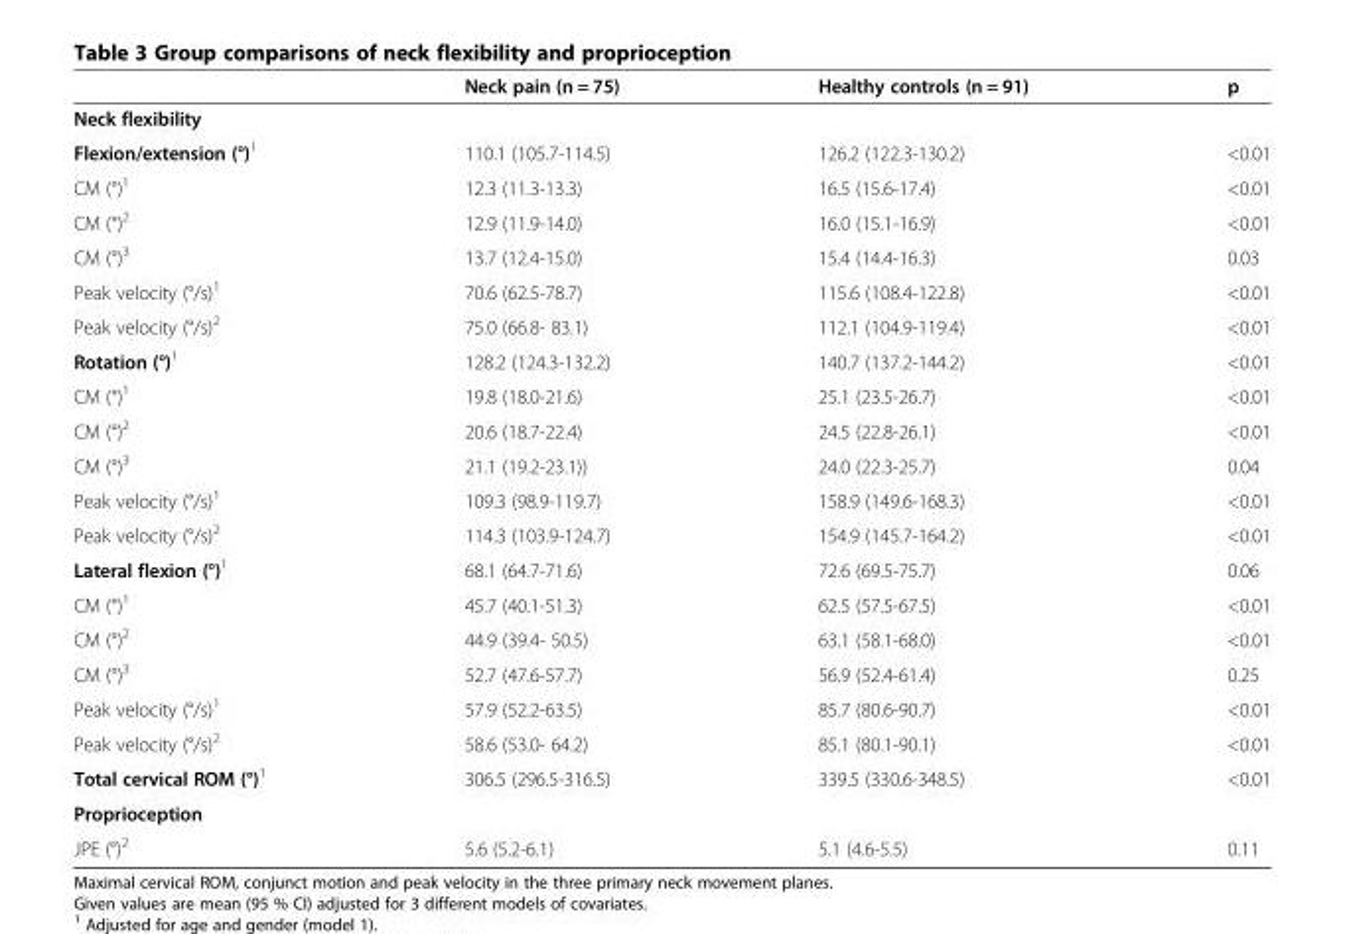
<table><thead><tr><td></td><td>Neck pain (n = 75)</td><td>Healthy controls (n = 91)</td><td>p</td></tr></thead><tbody><tr><td colspan="4">Neck flexibility</td></tr><tr><td>Flexion/extension (°)<sup>1</sup></td><td>110.1 (105.7-114.5)</td><td>126.2 (122.3-130.2)</td><td>&lt;0.01</td></tr><tr><td>CM (°)<sup>1</sup></td><td>12.3 (11.3-13.3)</td><td>16.5 (15.6-17.4)</td><td>&lt;0.01</td></tr><tr><td>CM (°)<sup>2</sup></td><td>12.9 (11.9-14.0)</td><td>16.0 (15.1-16.9)</td><td>&lt;0.01</td></tr><tr><td>CM (°)<sup>3</sup></td><td>13.7 (12.4-15.0)</td><td>15.4 (14.4-16.3)</td><td>0.03</td></tr><tr><td>Peak velocity (°/s)<sup>1</sup></td><td>70.6 (62.5-78.7)</td><td>115.6 (108.4-122.8)</td><td>&lt;0.01</td></tr><tr><td>Peak velocity (°/s)<sup>2</sup></td><td>75.0 (66.8- 83.1)</td><td>112.1 (104.9-119.4)</td><td>&lt;0.01</td></tr><tr><td>Rotation (°)<sup>1</sup></td><td>128.2 (124.3-132.2)</td><td>140.7 (137.2-144.2)</td><td>&lt;0.01</td></tr><tr><td>CM (°)<sup>1</sup></td><td>19.8 (18.0-21.6)</td><td>25.1 (23.5-26.7)</td><td>&lt;0.01</td></tr><tr><td>CM (°)<sup>2</sup></td><td>20.6 (18.7-22.4)</td><td>24.5 (22.8-26.1)</td><td>&lt;0.01</td></tr><tr><td>CM (°)<sup>3</sup></td><td>21.1 (19.2-23.1))</td><td>24.0 (22.3-25.7)</td><td>0.04</td></tr><tr><td>Peak velocity (°/s)<sup>1</sup></td><td>109.3 (98.9-119.7)</td><td>158.9 (149.6-168.3)</td><td>&lt;0.01</td></tr><tr><td>Peak velocity (°/s)<sup>2</sup></td><td>114.3 (103.9-124.7)</td><td>154.9 (145.7-164.2)</td><td>&lt;0.01</td></tr><tr><td>Lateral flexion (°)<sup>1</sup></td><td>68.1 (64.7-71.6)</td><td>72.6 (69.5-75.7)</td><td>0.06</td></tr><tr><td>CM (°)<sup>1</sup></td><td>45.7 (40.1-51.3)</td><td>62.5 (57.5-67.5)</td><td>&lt;0.01</td></tr><tr><td>CM (°)<sup>2</sup></td><td>44.9 (39.4- 50.5)</td><td>63.1 (58.1-68.0)</td><td>&lt;0.01</td></tr><tr><td>CM (°)<sup>3</sup></td><td>52.7 (47.6-57.7)</td><td>56.9 (52.4-61.4)</td><td>0.25</td></tr><tr><td>Peak velocity (°/s)<sup>1</sup></td><td>57.9 (52.2-63.5)</td><td>85.7 (80.6-90.7)</td><td>&lt;0.01</td></tr><tr><td>Peak velocity (°/s)<sup>2</sup></td><td>58.6 (53.0- 64.2)</td><td>85.1 (80.1-90.1)</td><td>&lt;0.01</td></tr><tr><td>Total cervical ROM (°)<sup>1</sup></td><td>306.5 (296.5-316.5)</td><td>339.5 (330.6-348.5)</td><td>&lt;0.01</td></tr><tr><td colspan="4">Proprioception</td></tr><tr><td>JPE (°)<sup>2</sup></td><td>5.6 (5.2-6.1)</td><td>5.1 (4.6-5.5)</td><td>0.11</td></tr></tbody></table>